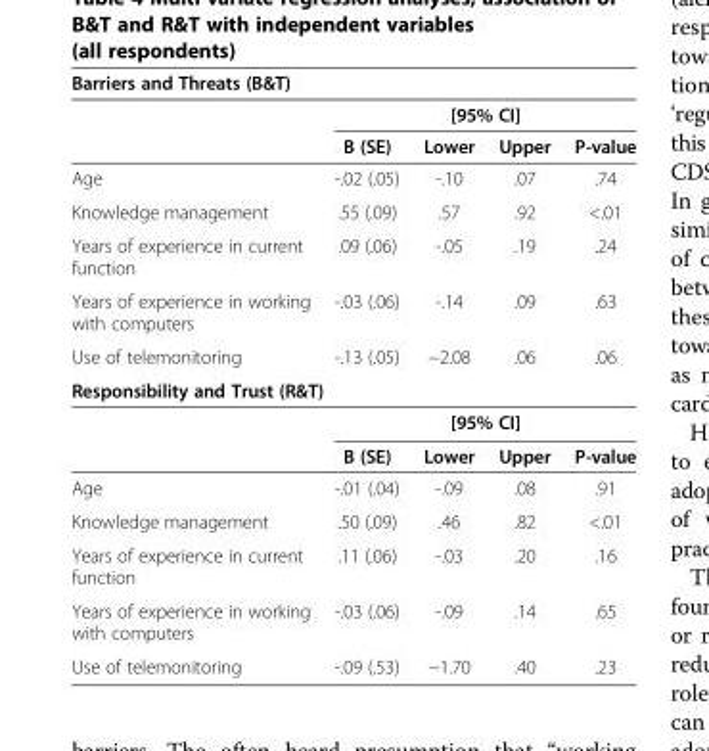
<table><thead><tr><td colspan="5">Barriers and Threats (B&amp;T)</td></tr><tr><td rowspan="2"></td><td colspan="4">[95% CI]</td></tr><tr><td>B (SE)</td><td>Lower</td><td>Upper</td><td>P-value</td></tr></thead><tbody><tr><td>Age</td><td>-.02 (.05)</td><td>-.10</td><td>.07</td><td>.74</td></tr><tr><td>Knowledge management</td><td>.55 (.09)</td><td>.57</td><td>.92</td><td>&lt;.01</td></tr><tr><td>Years of experience in current function</td><td>.09 (.06)</td><td>-.05</td><td>.19</td><td>.24</td></tr><tr><td>Years of experience in working with computers</td><td>-.03 (.06)</td><td>-.14</td><td>.09</td><td>.63</td></tr><tr><td>Use of telemonitoring</td><td>-.13 (.05)</td><td>−2.08</td><td>.06</td><td>.06</td></tr><tr><td colspan="5">Responsibility and Trust (R&amp;T)</td></tr><tr><td></td><td colspan="4">[95% CI]</td></tr><tr><td></td><td>B (SE)</td><td>Lower</td><td>Upper</td><td>P-value</td></tr><tr><td>Age</td><td>-.01 (.04)</td><td>-.09</td><td>.08</td><td>.91</td></tr><tr><td>Knowledge management</td><td>.50 (.09)</td><td>.46</td><td>.82</td><td>&lt;.01</td></tr><tr><td>Years of experience in current function</td><td>.11 (.06)</td><td>-.03</td><td>.20</td><td>.16</td></tr><tr><td>Years of experience in working with computers</td><td>-.03 (.06)</td><td>-.09</td><td>.14</td><td>.65</td></tr><tr><td>Use of telemonitoring</td><td>-.09 (.53)</td><td>−1.70</td><td>.40</td><td>.23</td></tr></tbody></table>